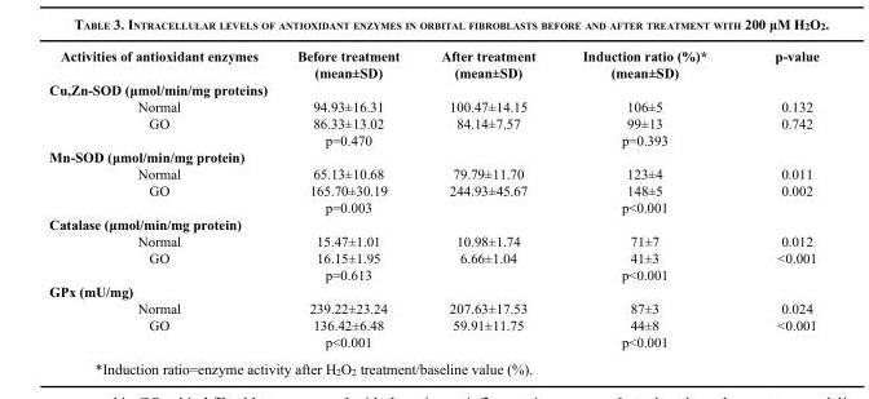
<table><thead><tr><td>Activities of antioxidant enzymes</td><td>Before treatment (mean±SD)</td><td>After treatment (mean±SD)</td><td>Induction ratio (%)* (mean±SD)</td><td>p-value</td></tr></thead><tbody><tr><td colspan="5">Cu,Zn-SOD (μmol/min/mg proteins)</td></tr><tr><td>Normal</td><td>94.93±16.31</td><td>100.47±14.15</td><td>106±5</td><td>0.132</td></tr><tr><td rowspan="2">GO</td><td>86.33±13.02</td><td>84.14±7.57</td><td>99±13</td><td>0.742</td></tr><tr><td>p=0.470</td><td></td><td>p=0.393</td><td></td></tr><tr><td colspan="5">Mn-SOD (μmol/min/mg protein)</td></tr><tr><td>Normal</td><td>65.13±10.68</td><td>79.79±11.70</td><td>123±4</td><td>0.011</td></tr><tr><td rowspan="2">GO</td><td>165.70±30.19</td><td>244.93±45.67</td><td>148±5</td><td>0.002</td></tr><tr><td>p=0.003</td><td></td><td>p&lt;0.001</td><td></td></tr><tr><td colspan="5">Catalase (μmol/min/mg protein)</td></tr><tr><td>Normal</td><td>15.47±1.01</td><td>10.98±1.74</td><td>71±7</td><td>0.012</td></tr><tr><td rowspan="2">GO</td><td>16.15±1.95</td><td>6.66±1.04</td><td>41±3</td><td>&lt;0.001</td></tr><tr><td>p=0.613</td><td></td><td>p&lt;0.001</td><td></td></tr><tr><td colspan="5">GPx (mU/mg)</td></tr><tr><td>Normal</td><td>239.22±23.24</td><td>207.63±17.53</td><td>87±3</td><td>0.024</td></tr><tr><td rowspan="2">GO</td><td>136.42±6.48</td><td>59.91±11.75</td><td>44±8</td><td>&lt;0.001</td></tr><tr><td>p&lt;0.001</td><td></td><td>p&lt;0.001</td><td></td></tr></tbody></table>